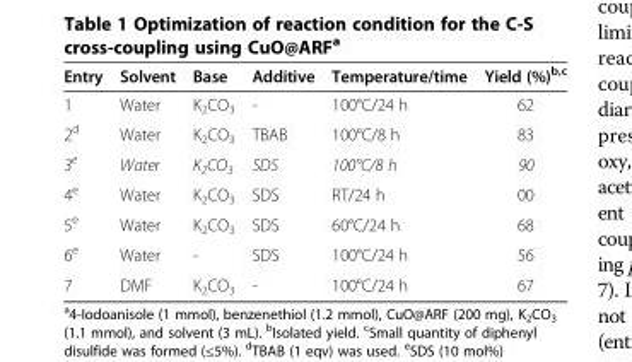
<table><thead><tr><td>Entry</td><td>Solvent</td><td>Base</td><td>Additive</td><td>Temperature/time</td><td>Yield (%)<sup>b,c</sup></td></tr></thead><tbody><tr><td>1</td><td>Water</td><td>K<sub>2</sub>CO<sub>3</sub></td><td>-</td><td>100°C/24 h</td><td>62</td></tr><tr><td>2<sup>d</sup></td><td>Water</td><td>K<sub>2</sub>CO<sub>3</sub></td><td>TBAB</td><td>100°C/8 h</td><td>83</td></tr><tr><td>3<sup>e</sup></td><td>Water</td><td>K<sub>2</sub>CO<sub>3</sub></td><td>SDS</td><td>100°C/8 h</td><td>90</td></tr><tr><td>4<sup>e</sup></td><td>Water</td><td>K<sub>2</sub>CO<sub>3</sub></td><td>SDS</td><td>RT/24 h</td><td>00</td></tr><tr><td>5<sup>e</sup></td><td>Water</td><td>K<sub>2</sub>CO<sub>3</sub></td><td>SDS</td><td>60°C/24 h</td><td>68</td></tr><tr><td>6<sup>e</sup></td><td>Water</td><td>-</td><td>SDS</td><td>100°C/24 h</td><td>56</td></tr><tr><td>7</td><td>DMF</td><td>K<sub>2</sub>CO<sub>3</sub></td><td>-</td><td>100°C/24 h</td><td>67</td></tr></tbody></table>